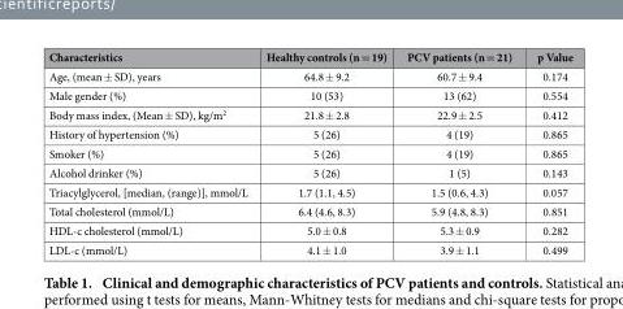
<table><thead><tr><td>Characteristics</td><td>Healthy controls (n = 19)</td><td>PCV patients (n = 21)</td><td>p Value</td></tr></thead><tbody><tr><td>Age, (mean ± SD), years</td><td>64.8 ± 9.2</td><td>60.7 ± 9.4</td><td>0.174</td></tr><tr><td>Male gender (%)</td><td>10 (53)</td><td>13 (62)</td><td>0.554</td></tr><tr><td>Body mass index, (Mean ± SD), kg/m<sup>2</sup></td><td>21.8 ± 2.8</td><td>22.9 ± 2.5</td><td>0.412</td></tr><tr><td>History of hypertension (%)</td><td>5 (26)</td><td>4 (19)</td><td>0.865</td></tr><tr><td>Smoker (%)</td><td>5 (26)</td><td>4 (19)</td><td>0.865</td></tr><tr><td>Alcohol drinker (%)</td><td>5 (26)</td><td>1 (5)</td><td>0.143</td></tr><tr><td>Triacylglycerol, [median, (range)], mmol/L</td><td>1.7 (1.1, 4.5)</td><td>1.5 (0.6, 4.3)</td><td>0.057</td></tr><tr><td>Total cholesterol (mmol/L)</td><td>6.4 (4.6, 8.3)</td><td>5.9 (4.8, 8.3)</td><td>0.851</td></tr><tr><td>HDL-c cholesterol (mmol/L)</td><td>5.0 ± 0.8</td><td>5.3 ± 0.9</td><td>0.282</td></tr><tr><td>LDL-c (mmol/L)</td><td>4.1 ± 1.0</td><td>3.9 ± 1.1</td><td>0.499</td></tr></tbody></table>